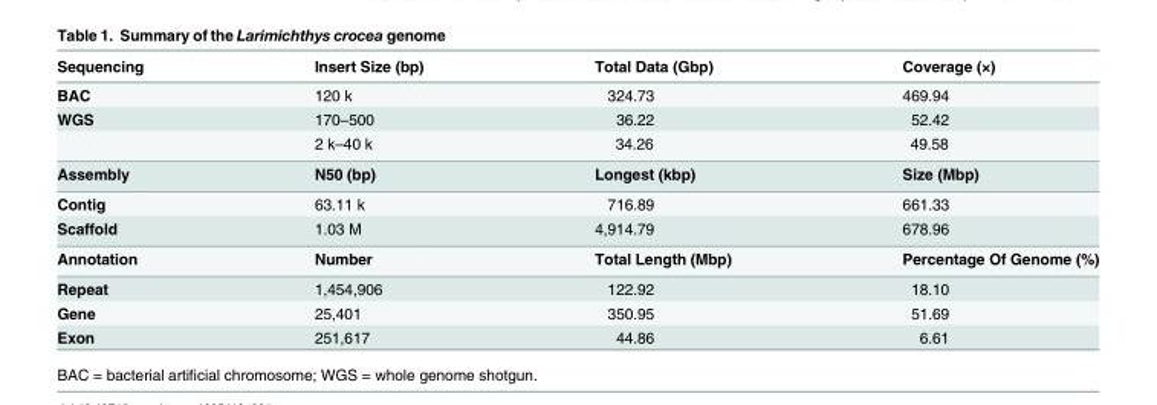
<table><thead><tr><td>Sequencing</td><td>Insert Size (bp)</td><td>Total Data (Gbp)</td><td>Coverage (×)</td></tr></thead><tbody><tr><td>BAC</td><td>120 k</td><td>324.73</td><td>469.94</td></tr><tr><td rowspan="2">WGS</td><td>170–500</td><td>36.22</td><td>52.42</td></tr><tr><td>2 k–40 k</td><td>34.26</td><td>49.58</td></tr><tr><td>Assembly</td><td>N50 (bp)</td><td>Longest (kbp)</td><td>Size (Mbp)</td></tr><tr><td>Contig</td><td>63.11 k</td><td>716.89</td><td>661.33</td></tr><tr><td>Scaffold</td><td>1.03 M</td><td>4,914.79</td><td>678.96</td></tr><tr><td>Annotation</td><td>Number</td><td>Total Length (Mbp)</td><td>Percentage Of Genome (%)</td></tr><tr><td>Repeat</td><td>1,454,906</td><td>122.92</td><td>18.10</td></tr><tr><td>Gene</td><td>25,401</td><td>350.95</td><td>51.69</td></tr><tr><td>Exon</td><td>251,617</td><td>44.86</td><td>6.61</td></tr></tbody></table>